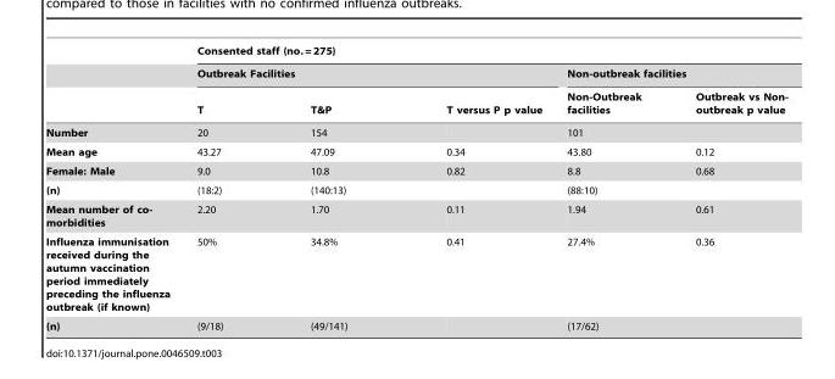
<table><thead><tr><td rowspan="3"></td><td colspan="5">Consented staff (no. = 275)</td></tr><tr><td colspan="3">Outbreak Facilities</td><td colspan="2">Non-outbreak facilities</td></tr><tr><td>T</td><td>T&amp;P</td><td>T versus P p value</td><td>Non-Outbreak facilities</td><td>Outbreak vs Non- outbreak p value</td></tr></thead><tbody><tr><td>Number</td><td>20</td><td>154</td><td></td><td>101</td><td></td></tr><tr><td>Mean age</td><td>43.27</td><td>47.09</td><td>0.34</td><td>43.80</td><td>0.12</td></tr><tr><td>Female: Male</td><td>9.0</td><td>10.8</td><td>0.82</td><td>8.8</td><td>0.68</td></tr><tr><td>(n)</td><td>(18:2)</td><td>(140:13)</td><td></td><td>(88:10)</td><td></td></tr><tr><td>Mean number of co- morbidities</td><td>2.20</td><td>1.70</td><td>0.11</td><td>1.94</td><td>0.61</td></tr><tr><td>Influenza immunisation received during the autumn vaccination period immediately preceding the influenza outbreak (if known)</td><td>50%</td><td>34.8%</td><td>0.41</td><td>27.4%</td><td>0.36</td></tr><tr><td>(n)</td><td>(9/18)</td><td>(49/141)</td><td></td><td>(17/62)</td><td></td></tr></tbody></table>